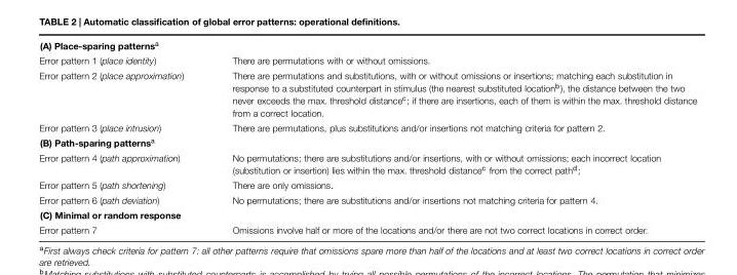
<table><tbody><tr><td colspan="2">(A) Place-sparing patterns<sup>a</sup></td></tr><tr><td>Error pattern 1 (place identity)</td><td>There are permutations with or without omissions.</td></tr><tr><td>Error pattern 2 (place approximation)</td><td>There are permutations and substitutions, with or without omissions or insertions; matching each substitution in response to a substituted counterpart in stimulus (the nearest substituted location<sup>b</sup>), the distance between the two never exceeds the max. threshold distance<sup>c</sup>; if there are insertions, each of them is within the max. threshold distance from a correct location.</td></tr><tr><td>Error pattern 3 (place intrusion)</td><td>There are permutations, plus substitutions and/or insertions not matching criteria for pattern 2.</td></tr><tr><td colspan="2">(B) Path-sparing patterns<sup>a</sup></td></tr><tr><td>Error pattern 4 (path approximation)</td><td>No permutations; there are substitutions and/or insertions, with or without omissions; each incorrect location (substitution or insertion) lies within the max. threshold distance<sup>c</sup> from the correct path<sup>d</sup>;</td></tr><tr><td>Error pattern 5 (path shortening)</td><td>There are only omissions.</td></tr><tr><td>Error pattern 6 (path deviation)</td><td>No permutations; there are substitutions and/or insertions not matching criteria for pattern 4.</td></tr><tr><td colspan="2">(C) Minimal or random response</td></tr><tr><td>Error pattern 7</td><td>Omissions involve half or more of the locations and/or there are not two correct locations in correct order.</td></tr></tbody></table>